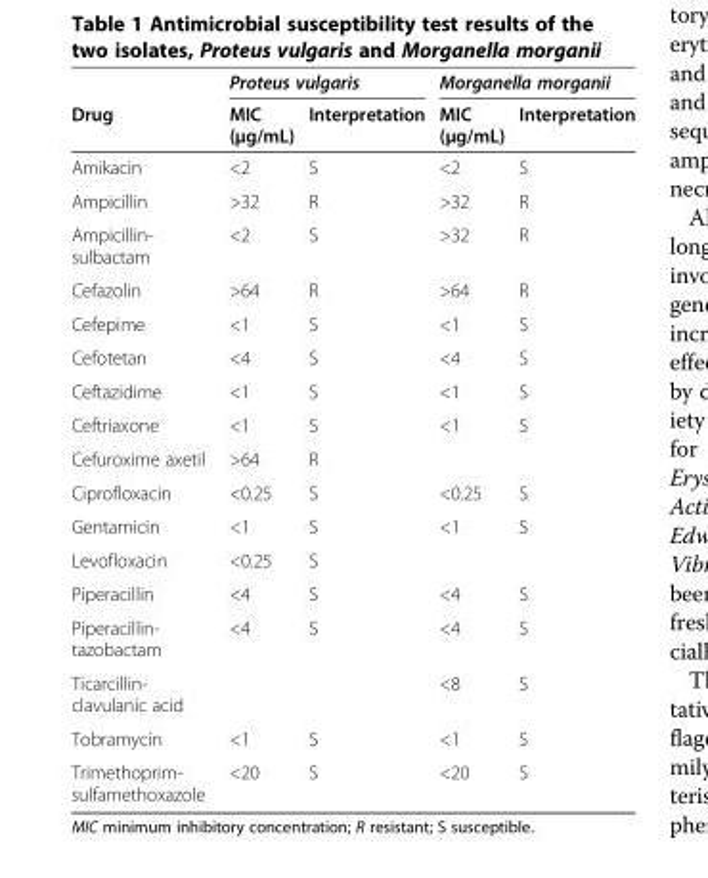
<table><thead><tr><td rowspan="2">Drug</td><td colspan="2">Proteus vulgaris</td><td colspan="2">Morganella morganii</td></tr><tr><td>MIC (μg/mL)</td><td>Interpretation</td><td>MIC (μg/mL)</td><td>Interpretation</td></tr></thead><tbody><tr><td>Amikacin</td><td>&lt;2</td><td>S</td><td>&lt;2</td><td>S</td></tr><tr><td>Ampicillin</td><td>&gt;32</td><td>R</td><td>&gt;32</td><td>R</td></tr><tr><td>Ampicillin- sulbactam</td><td>&lt;2</td><td>S</td><td>&gt;32</td><td>R</td></tr><tr><td>Cefazolin</td><td>&gt;64</td><td>R</td><td>&gt;64</td><td>R</td></tr><tr><td>Cefepime</td><td>&lt;1</td><td>S</td><td>&lt;1</td><td>S</td></tr><tr><td>Cefotetan</td><td>&lt;4</td><td>S</td><td>&lt;4</td><td>S</td></tr><tr><td>Ceftazidime</td><td>&lt;1</td><td>S</td><td>&lt;1</td><td>S</td></tr><tr><td>Ceftriaxone</td><td>&lt;1</td><td>S</td><td>&lt;1</td><td>S</td></tr><tr><td>Cefuroxime axetil</td><td>&gt;64</td><td>R</td><td></td><td></td></tr><tr><td>Ciprofloxacin</td><td>&lt;0.25</td><td>S</td><td>&lt;0.25</td><td>S</td></tr><tr><td>Gentamicin</td><td>&lt;1</td><td>S</td><td>&lt;1</td><td>S</td></tr><tr><td>Levofloxacin</td><td>&lt;0.25</td><td>S</td><td></td><td></td></tr><tr><td>Piperacillin</td><td>&lt;4</td><td>S</td><td>&lt;4</td><td>S</td></tr><tr><td>Piperacillin- tazobactam</td><td>&lt;4</td><td>S</td><td>&lt;4</td><td>S</td></tr><tr><td>Ticarcillin- clavulanic acid</td><td></td><td></td><td>&lt;8</td><td>S</td></tr><tr><td>Tobramycin</td><td>&lt;1</td><td>S</td><td>&lt;1</td><td>S</td></tr><tr><td>Trimethoprim- sulfamethoxazole</td><td>&lt;20</td><td>S</td><td>&lt;20</td><td>S</td></tr></tbody></table>